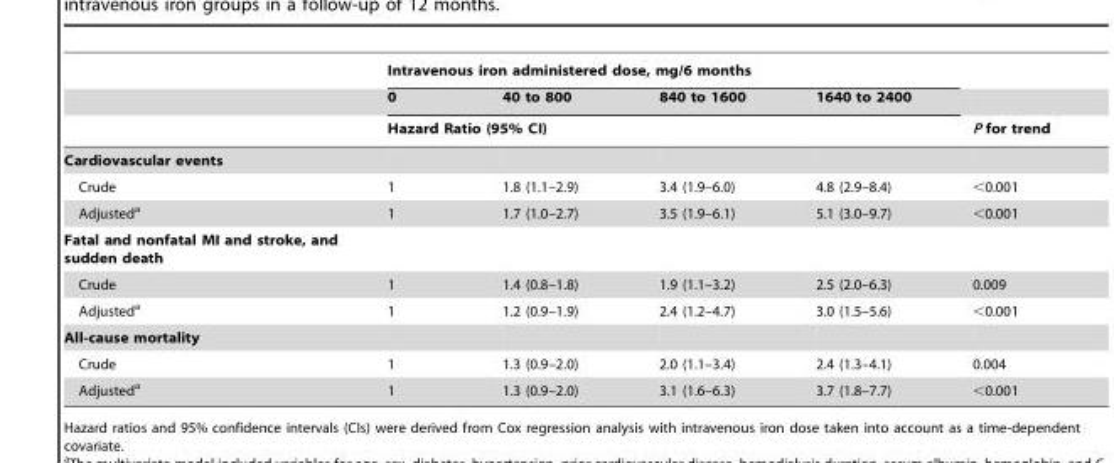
<table><thead><tr><td rowspan="3"></td><td colspan="4">Intravenous iron administered dose, mg/6 months</td><td rowspan="3">P for trend</td></tr><tr><td>0</td><td>40 to 800</td><td>840 to 1600</td><td>1640 to 2400</td></tr><tr><td colspan="4">Hazard Ratio (95% CI)</td></tr></thead><tbody><tr><td colspan="6">Cardiovascular events</td></tr><tr><td>Crude</td><td>1</td><td>1.8 (1.1–2.9)</td><td>3.4 (1.9–6.0)</td><td>4.8 (2.9–8.4)</td><td>&lt;0.001</td></tr><tr><td>Adjusted<sup>a</sup></td><td>1</td><td>1.7 (1.0–2.7)</td><td>3.5 (1.9–6.1)</td><td>5.1 (3.0–9.7)</td><td>&lt;0.001</td></tr><tr><td colspan="6">Fatal and nonfatal MI and stroke, and sudden death</td></tr><tr><td>Crude</td><td>1</td><td>1.4 (0.8–1.8)</td><td>1.9 (1.1–3.2)</td><td>2.5 (2.0–6.3)</td><td>0.009</td></tr><tr><td>Adjusted<sup>a</sup></td><td>1</td><td>1.2 (0.9–1.9)</td><td>2.4 (1.2–4.7)</td><td>3.0 (1.5–5.6)</td><td>&lt;0.001</td></tr><tr><td colspan="6">All-cause mortality</td></tr><tr><td>Crude</td><td>1</td><td>1.3 (0.9–2.0)</td><td>2.0 (1.1–3.4)</td><td>2.4 (1.3–4.1)</td><td>0.004</td></tr><tr><td>Adjusted<sup>a</sup></td><td>1</td><td>1.3 (0.9–2.0)</td><td>3.1 (1.6–6.3)</td><td>3.7 (1.8–7.7)</td><td>&lt;0.001</td></tr></tbody></table>